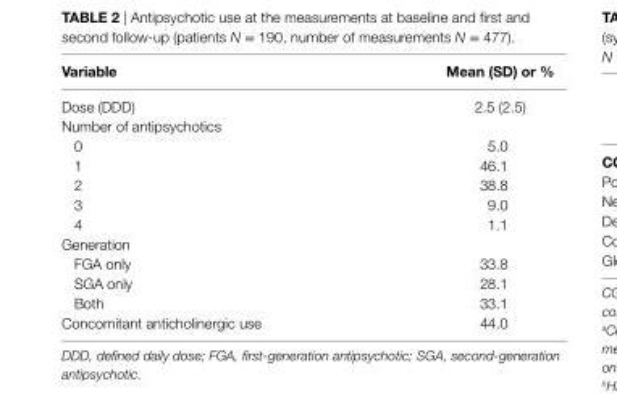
<table><thead><tr><td>Variable</td><td>Mean (sD) or %</td></tr></thead><tbody><tr><td>Dose (DDD)</td><td>2.5 (2.5)</td></tr><tr><td colspan="2">Number of antipsychotics</td></tr><tr><td>0</td><td>5.0</td></tr><tr><td>1</td><td>46.1</td></tr><tr><td>2</td><td>38.8</td></tr><tr><td>3</td><td>9.0</td></tr><tr><td>4</td><td>1.1</td></tr><tr><td colspan="2">Generation</td></tr><tr><td>FGA only</td><td>33.8</td></tr><tr><td>SGA only</td><td>28.1</td></tr><tr><td>Both</td><td>33.1</td></tr><tr><td>Concomitant anticholinergic use</td><td>44.0</td></tr></tbody></table>